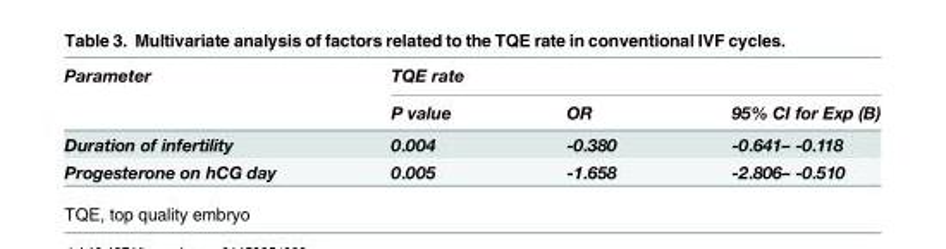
<table><thead><tr><td rowspan="2">Parameter</td><td colspan="3">TQE rate</td></tr><tr><td>P value</td><td>OR</td><td>95% CI for Exp (B)</td></tr></thead><tbody><tr><td>Duration of infertility</td><td>0.004</td><td>-0.380</td><td>-0.641– -0.118</td></tr><tr><td>Progesterone on hCG day</td><td>0.005</td><td>-1.658</td><td>-2.806– -0.510</td></tr></tbody></table>